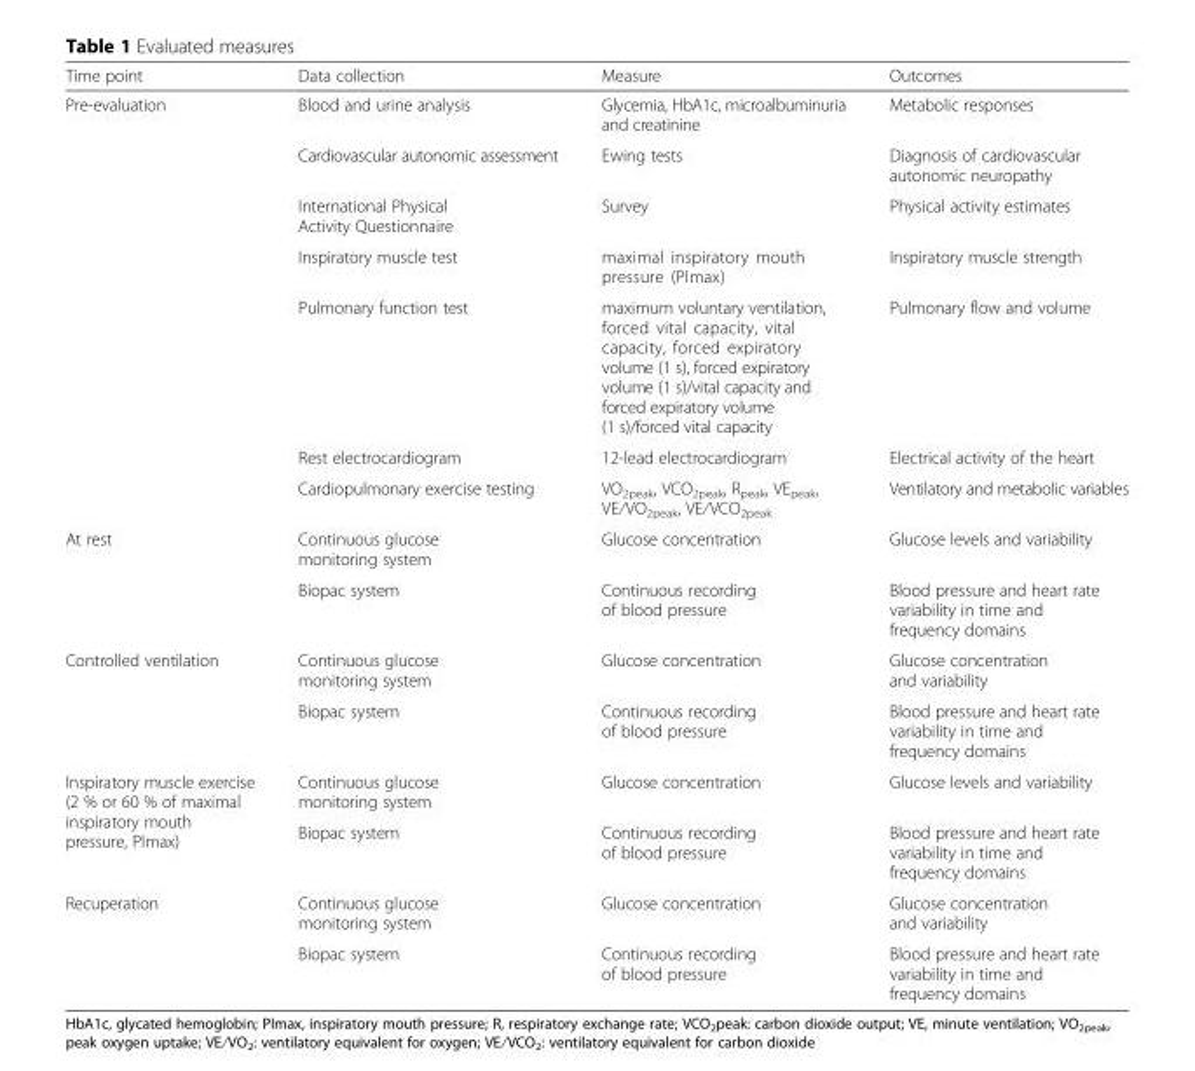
<table><thead><tr><td>Time point</td><td>Data collection</td><td>Measure</td><td>Outcomes</td></tr></thead><tbody><tr><td rowspan="7">Pre-evaluation</td><td>Blood and urine analysis</td><td>Glycemia, HbA1c, microalbuminuria and creatinine</td><td>Metabolic responses</td></tr><tr><td>Cardiovascular autonomic assessment</td><td>Ewing tests</td><td>Diagnosis of cardiovascular autonomic neuropathy</td></tr><tr><td>International Physical Activity Questionnaire</td><td>Survey</td><td>Physical activity estimates</td></tr><tr><td>Inspiratory muscle test</td><td>maximal inspiratory mouth pressure (PImax)</td><td>Inspiratory muscle strength</td></tr><tr><td>Pulmonary function test</td><td>maximum voluntary ventilation, forced vital capacity, vital capacity, forced expiratory volume (1 s), forced expiratory volume (1 s)/vital capacity and forced expiratory volume (1 s)/forced vital capacity</td><td>Pulmonary flow and volume</td></tr><tr><td>Rest electrocardiogram</td><td>12-lead electrocardiogram</td><td>Electrical activity of the heart</td></tr><tr><td>Cardiopulmonary exercise testing</td><td>VO<sub>2peak</sub>, VCO<sub>2peak</sub>, R<sub>peak</sub>, VE<sub>peak</sub>, VE⁄VO<sub>2peak</sub>, VE⁄VCO<sub>2peak</sub></td><td>Ventilatory and metabolic variables</td></tr><tr><td rowspan="2">At rest</td><td>Continuous glucose monitoring system</td><td>Glucose concentration</td><td>Glucose levels and variability</td></tr><tr><td>Biopac system</td><td>Continuous recording of blood pressure</td><td>Blood pressure and heart rate variability in time and frequency domains</td></tr><tr><td rowspan="2">Controlled ventilation</td><td>Continuous glucose monitoring system</td><td>Glucose concentration</td><td>Glucose concentration and variability</td></tr><tr><td>Biopac system</td><td>Continuous recording of blood pressure</td><td>Blood pressure and heart rate variability in time and frequency domains</td></tr><tr><td rowspan="2">Inspiratory muscle exercise (2 % or 60 % of maximal inspiratory mouth pressure, PImax)</td><td>Continuous glucose monitoring system</td><td>Glucose concentration</td><td>Glucose levels and variability</td></tr><tr><td>Biopac system</td><td>Continuous recording of blood pressure</td><td>Blood pressure and heart rate variability in time and frequency domains</td></tr><tr><td rowspan="2">Recuperation</td><td>Continuous glucose monitoring system</td><td>Glucose concentration</td><td>Glucose concentration and variability</td></tr><tr><td>Biopac system</td><td>Continuous recording of blood pressure</td><td>Blood pressure and heart rate variability in time and frequency domains</td></tr></tbody></table>